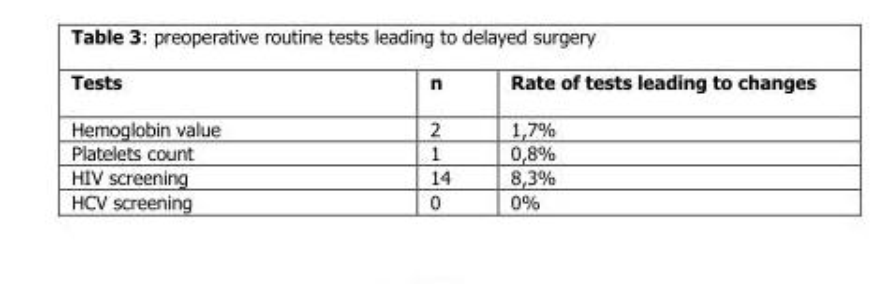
<table><thead><tr><td>Tests</td><td>n</td><td>Rate of tests leading to changes</td></tr></thead><tbody><tr><td>Hemoglobin value</td><td>2</td><td>1,7%</td></tr><tr><td>Platelets count</td><td>1</td><td>0,8%</td></tr><tr><td>HIV screening</td><td>14</td><td>8,3%</td></tr><tr><td>HCV screening</td><td>0</td><td>0%</td></tr></tbody></table>